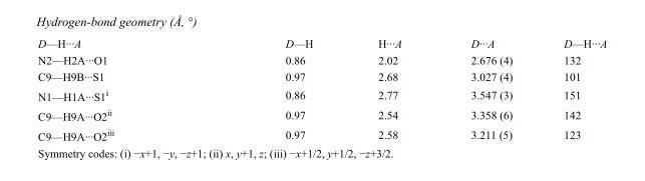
<table><tbody><tr><td>D—H···A</td><td>D—H</td><td>H···A</td><td>D···A</td><td>D—H···A</td></tr><tr><td>N2—H2A···O1</td><td>0.86</td><td>2.02</td><td>2.676 (4)</td><td>132</td></tr><tr><td>C9—H9B···S1</td><td>0.97</td><td>2.68</td><td>3.027 (4)</td><td>101</td></tr><tr><td>N1—H1A···S1<sup>i</sup></td><td>0.86</td><td>2.77</td><td>3.547 (3)</td><td>151</td></tr><tr><td>C9—H9A···O2<sup>ii</sup></td><td>0.97</td><td>2.54</td><td>3.358 (6)</td><td>142</td></tr><tr><td>C9—H9A···O2<sup>iii</sup></td><td>0.97</td><td>2.58</td><td>3.211 (5)</td><td>123</td></tr></tbody></table>